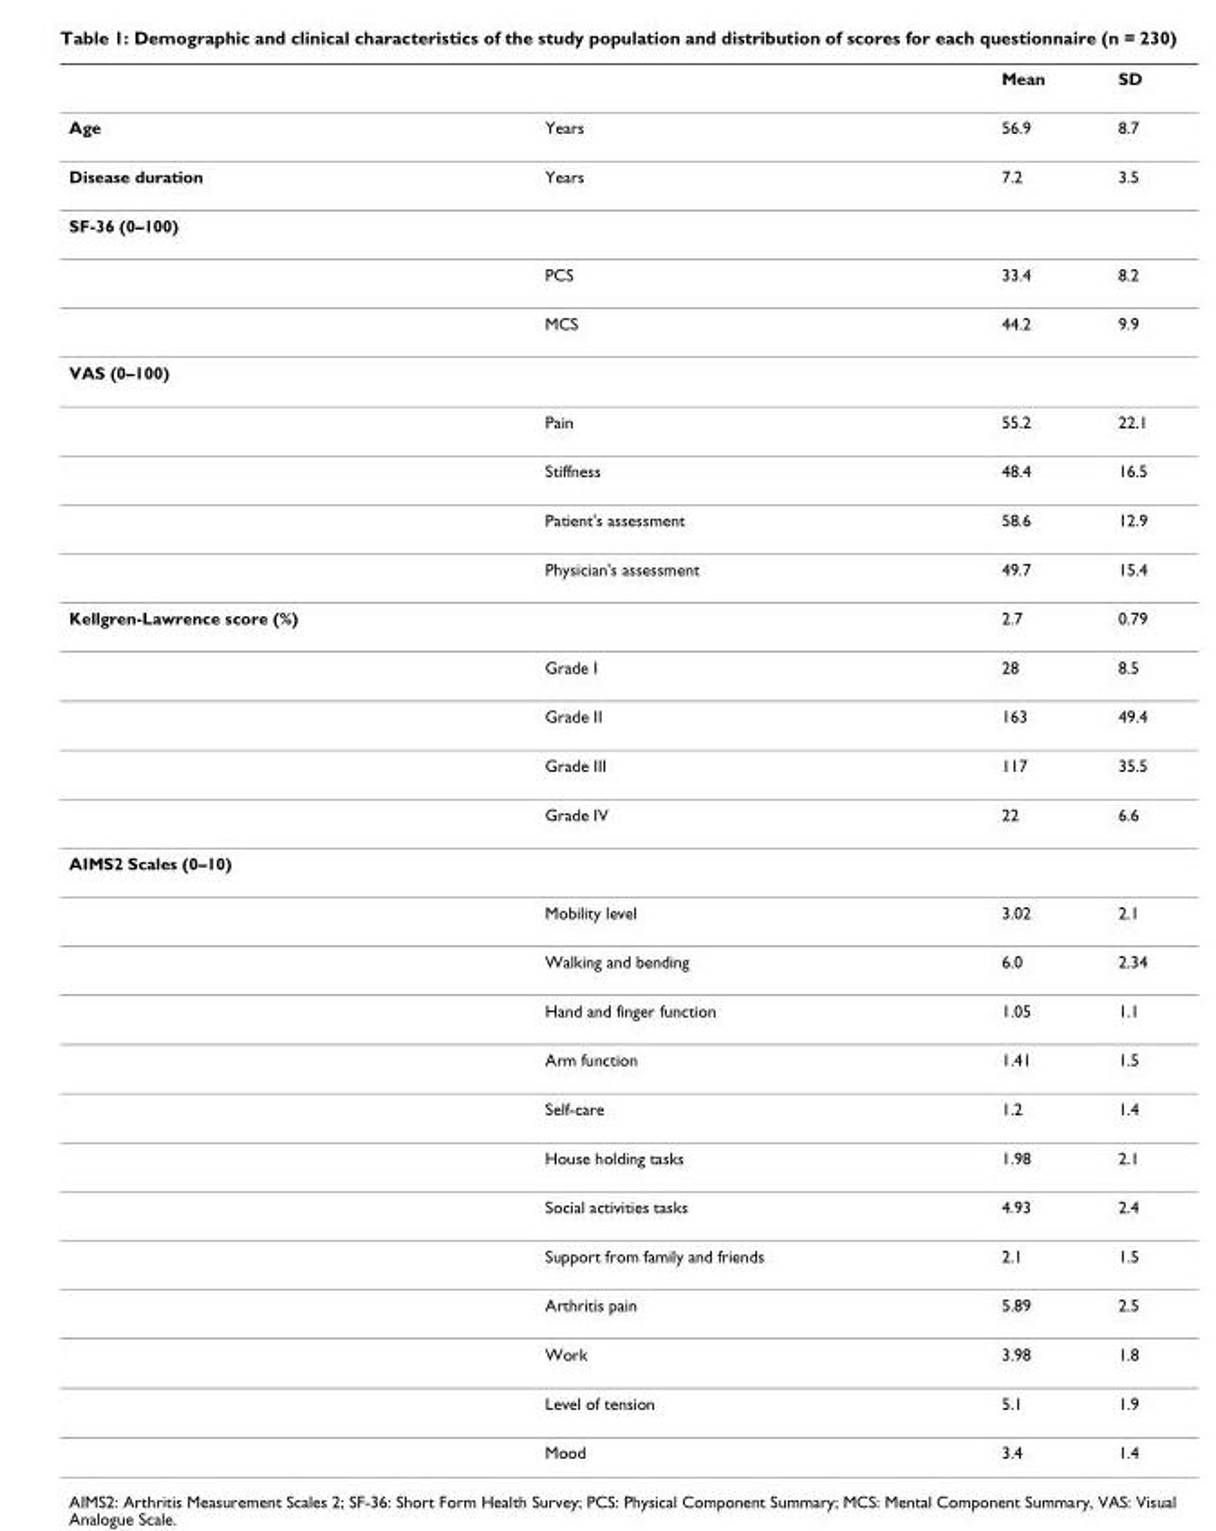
<table><thead><tr><td></td><td></td><td>Mean</td><td>SD</td></tr></thead><tbody><tr><td>Age</td><td>Years</td><td>56.9</td><td>8.7</td></tr><tr><td>Disease duration</td><td>Years</td><td>7.2</td><td>3.5</td></tr><tr><td colspan="4">SF-36 (0–100)</td></tr><tr><td></td><td>PCS</td><td>33.4</td><td>8.2</td></tr><tr><td></td><td>MCS</td><td>44.2</td><td>9.9</td></tr><tr><td colspan="4">VAS (0–100)</td></tr><tr><td></td><td>Pain</td><td>55.2</td><td>22.1</td></tr><tr><td></td><td>Stiffness</td><td>48.4</td><td>16.5</td></tr><tr><td></td><td>Patient&#x27;s assessment</td><td>58.6</td><td>12.9</td></tr><tr><td></td><td>Physician&#x27;s assessment</td><td>49.7</td><td>15.4</td></tr><tr><td rowspan="5">Kellgren-Lawrence score (%)</td><td></td><td>2.7</td><td>0.79</td></tr><tr><td>Grade I</td><td>28</td><td>8.5</td></tr><tr><td>Grade II</td><td>163</td><td>49.4</td></tr><tr><td>Grade III</td><td>117</td><td>35.5</td></tr><tr><td>Grade IV</td><td>22</td><td>6.6</td></tr><tr><td colspan="4">AIMS2 Scales (0–10)</td></tr><tr><td></td><td>Mobility level</td><td>3.02</td><td>2.1</td></tr><tr><td></td><td>Walking and bending</td><td>6.0</td><td>2.34</td></tr><tr><td></td><td>Hand and finger function</td><td>1.05</td><td>1.1</td></tr><tr><td></td><td>Arm function</td><td>1.41</td><td>1.5</td></tr><tr><td></td><td>Self-care</td><td>1.2</td><td>1.4</td></tr><tr><td></td><td>House holding tasks</td><td>1.98</td><td>2.1</td></tr><tr><td></td><td>Social activities tasks</td><td>4.93</td><td>2.4</td></tr><tr><td></td><td>Support from family and friends</td><td>2.1</td><td>1.5</td></tr><tr><td></td><td>Arthritis pain</td><td>5.89</td><td>2.5</td></tr><tr><td></td><td>Work</td><td>3.98</td><td>1.8</td></tr><tr><td></td><td>Level of tension</td><td>5.1</td><td>1.9</td></tr><tr><td></td><td>Mood</td><td>3.4</td><td>1.4</td></tr></tbody></table>